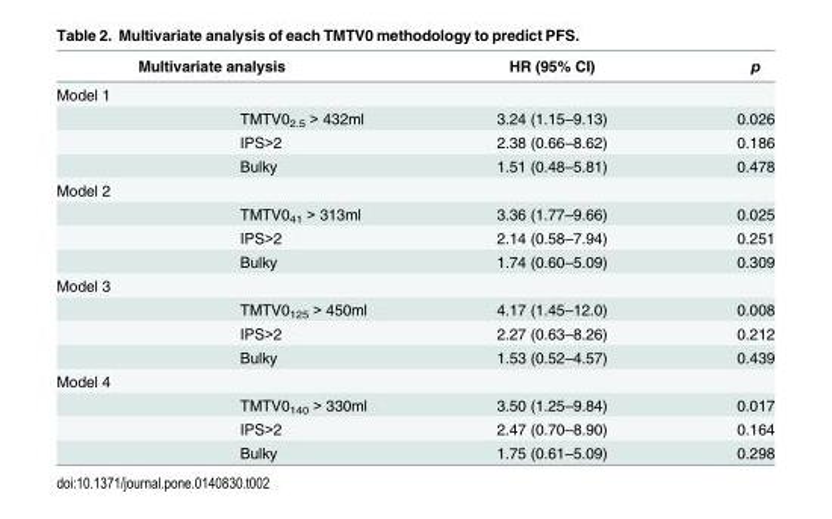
<table><thead><tr><td colspan="2">Multivariate analysis</td><td rowspan="2">HR (95% CI)</td><td rowspan="2">p</td></tr><tr><td>Model 1</td><td></td></tr></thead><tbody><tr><td></td><td>TMTV0<sub>2.5</sub> &gt; 432ml</td><td>3.24 (1.15–9.13)</td><td>0.026</td></tr><tr><td></td><td>IPS&gt;2</td><td>2.38 (0.66–8.62)</td><td>0.186</td></tr><tr><td></td><td>Bulky</td><td>1.51 (0.48–5.81)</td><td>0.478</td></tr><tr><td colspan="4">Model 2</td></tr><tr><td></td><td>TMTV0<sub>41</sub> &gt; 313ml</td><td>3.36 (1.77–9.66)</td><td>0.025</td></tr><tr><td></td><td>IPS&gt;2</td><td>2.14 (0.58–7.94)</td><td>0.251</td></tr><tr><td></td><td>Bulky</td><td>1.74 (0.60–5.09)</td><td>0.309</td></tr><tr><td colspan="4">Model 3</td></tr><tr><td></td><td>TMTV0<sub>125</sub> &gt; 450ml</td><td>4.17 (1.45–12.0)</td><td>0.008</td></tr><tr><td></td><td>IPS&gt;2</td><td>2.27 (0.63–8.26)</td><td>0.212</td></tr><tr><td></td><td>Bulky</td><td>1.53 (0.52–4.57)</td><td>0.439</td></tr><tr><td colspan="4">Model 4</td></tr><tr><td></td><td>TMTV0<sub>140</sub> &gt; 330ml</td><td>3.50 (1.25–9.84)</td><td>0.017</td></tr><tr><td></td><td>IPS&gt;2</td><td>2.47 (0.70–8.90)</td><td>0.164</td></tr><tr><td></td><td>Bulky</td><td>1.75 (0.61–5.09)</td><td>0.298</td></tr></tbody></table>